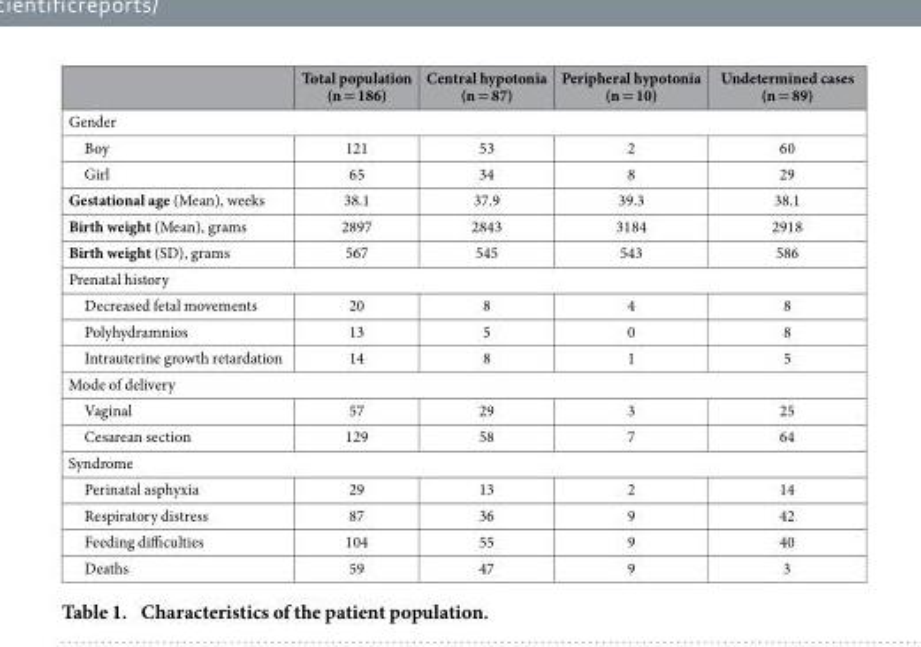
<table><thead><tr><td></td><td>Total population (n = 186)</td><td>Central hypotonia (n = 87)</td><td>Peripheral hypotonia (n = 10)</td><td>Undetermined cases (n = 89)</td></tr></thead><tbody><tr><td colspan="5">Gender</td></tr><tr><td>Boy</td><td>121</td><td>53</td><td>2</td><td>60</td></tr><tr><td>Girl</td><td>65</td><td>34</td><td>8</td><td>29</td></tr><tr><td>Gestational age (Mean), weeks</td><td>38.1</td><td>37.9</td><td>39.3</td><td>38.1</td></tr><tr><td>Birth weight (Mean), grams</td><td>2897</td><td>2843</td><td>3184</td><td>2918</td></tr><tr><td>Birth weight (SD), grams</td><td>567</td><td>545</td><td>543</td><td>586</td></tr><tr><td colspan="5">Prenatal history</td></tr><tr><td>Decreased fetal movements</td><td>20</td><td>8</td><td>4</td><td>8</td></tr><tr><td>Polyhydramnios</td><td>13</td><td>5</td><td>0</td><td>8</td></tr><tr><td>Intrauterine growth retardation</td><td>14</td><td>8</td><td>1</td><td>5</td></tr><tr><td colspan="5">Mode of delivery</td></tr><tr><td>Vaginal</td><td>57</td><td>29</td><td>3</td><td>25</td></tr><tr><td>Cesarean section</td><td>129</td><td>58</td><td>7</td><td>64</td></tr><tr><td colspan="5">Syndrome</td></tr><tr><td>Perinatal asphyxia</td><td>29</td><td>13</td><td>2</td><td>14</td></tr><tr><td>Respiratory distress</td><td>87</td><td>36</td><td>9</td><td>42</td></tr><tr><td>Feeding difficulties</td><td>104</td><td>55</td><td>9</td><td>40</td></tr><tr><td>Deaths</td><td>59</td><td>47</td><td>9</td><td>3</td></tr></tbody></table>